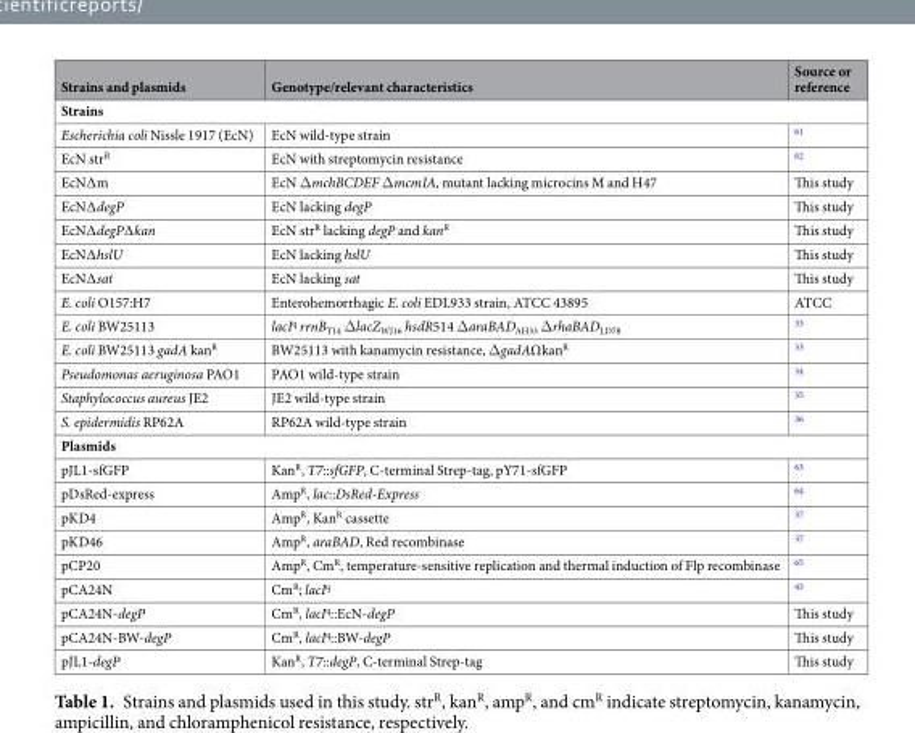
<table><thead><tr><td>Strains and plasmids</td><td>Genotype/relevant characteristics</td><td>Source or reference</td></tr></thead><tbody><tr><td colspan="3">Strains</td></tr><tr><td>Escherichia coli Nissle 1917 (EcN)</td><td>EcN wild-type strain</td><td><sup>61</sup></td></tr><tr><td>EcN str<sup>R</sup></td><td>EcN with streptomycin resistance</td><td><sup>62</sup></td></tr><tr><td>EcN∆m</td><td>EcN ΔmchBCDEF ΔmcmIA, mutant lacking microcins M and H47</td><td>This study</td></tr><tr><td>EcN∆degP</td><td>EcN lacking degP</td><td>This study</td></tr><tr><td>EcN∆degP∆kan</td><td>EcN str<sup>R</sup> lacking degP and kan<sup>R</sup></td><td>This study</td></tr><tr><td>EcN∆hslU</td><td>EcN lacking hslU</td><td>This study</td></tr><tr><td>EcN∆sat</td><td>EcN lacking sat</td><td>This study</td></tr><tr><td>E. coli O157:H7</td><td>Enterohemorrhagic E. coli EDL933 strain, ATCC 43895</td><td>ATCC</td></tr><tr><td>E. coli BW25113</td><td>lacI<sup>q</sup> rrnB<sub>T14</sub> ΔlacZ<sub>WJ16</sub> hsdR514 ΔaraBAD<sub>AH33</sub> ΔrhaBAD<sub>LD78</sub></td><td><sup>33</sup></td></tr><tr><td>E. coli BW25113 gadA kan<sup>R</sup></td><td>BW25113 with kanamycin resistance, ΔgadAΩkan<sup>R</sup></td><td><sup>33</sup></td></tr><tr><td>Pseudomonas aeruginosa PAO1</td><td>PAO1 wild-type strain</td><td><sup>34</sup></td></tr><tr><td>Staphylococcus aureus JE2</td><td>JE2 wild-type strain</td><td><sup>35</sup></td></tr><tr><td>S. epidermidis RP62A</td><td>RP62A wild-type strain</td><td><sup>36</sup></td></tr><tr><td colspan="3">Plasmids</td></tr><tr><td>pJL1-sfGFP</td><td>Kan<sup>R</sup>, T7::sfGFP, C-terminal Strep-tag, pY71-sfGFP</td><td><sup>63</sup></td></tr><tr><td>pDsRed-express</td><td>Amp<sup>R</sup>, lac::DsRed-Express</td><td><sup>64</sup></td></tr><tr><td>pKD4</td><td>Amp<sup>R</sup>, Kan<sup>R</sup> cassette</td><td><sup>37</sup></td></tr><tr><td>pKD46</td><td>Amp<sup>R</sup>, araBAD, Red recombinase</td><td><sup>37</sup></td></tr><tr><td>pCP20</td><td>Amp<sup>R</sup>, Cm<sup>R</sup>, temperature-sensitive replication and thermal induction of Flp recombinase</td><td><sup>65</sup></td></tr><tr><td>pCA24N</td><td>Cm<sup>R</sup>; lacI<sup>q</sup></td><td><sup>43</sup></td></tr><tr><td>pCA24N-degP</td><td>Cm<sup>R</sup>, lacI<sup>q</sup>::EcN-degP</td><td>This study</td></tr><tr><td>pCA24N-BW-degP</td><td>Cm<sup>R</sup>, lacI<sup>q</sup>::BW-degP</td><td>This study</td></tr><tr><td>pJL1-degP</td><td>Kan<sup>R</sup>, T7::degP, C-terminal Strep-tag</td><td>This study</td></tr></tbody></table>